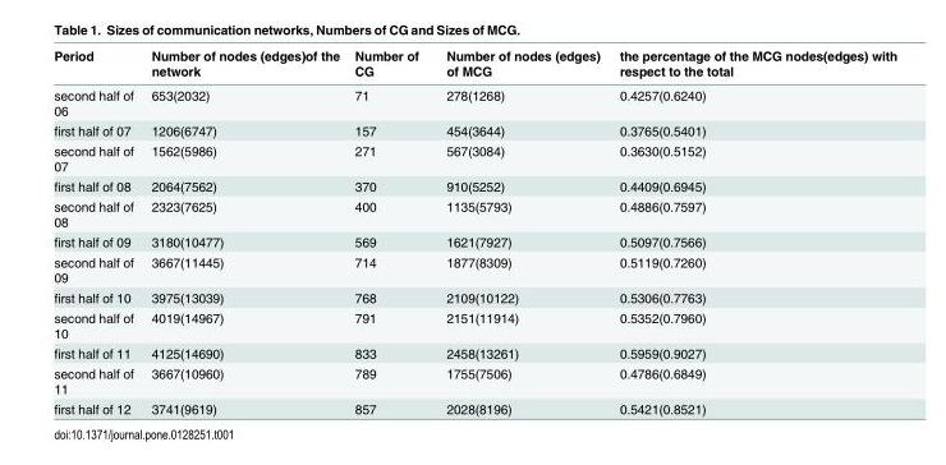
<table><thead><tr><td>Period</td><td>Number of nodes (edges)of the network</td><td>Number of CG</td><td>Number of nodes (edges) of MCG</td><td>the percentage of the MCG nodes(edges) with respect to the total</td></tr></thead><tbody><tr><td>second half of 06</td><td>653(2032)</td><td>71</td><td>278(1268)</td><td>0.4257(0.6240)</td></tr><tr><td>first half of 07</td><td>1206(6747)</td><td>157</td><td>454(3644)</td><td>0.3765(0.5401)</td></tr><tr><td>second half of 07</td><td>1562(5986)</td><td>271</td><td>567(3084)</td><td>0.3630(0.5152)</td></tr><tr><td>first half of 08</td><td>2064(7562)</td><td>370</td><td>910(5252)</td><td>0.4409(0.6945)</td></tr><tr><td>second half of 08</td><td>2323(7625)</td><td>400</td><td>1135(5793)</td><td>0.4886(0.7597)</td></tr><tr><td>first half of 09</td><td>3180(10477)</td><td>569</td><td>1621(7927)</td><td>0.5097(0.7566)</td></tr><tr><td>second half of 09</td><td>3667(11445)</td><td>714</td><td>1877(8309)</td><td>0.5119(0.7260)</td></tr><tr><td>first half of 10</td><td>3975(13039)</td><td>768</td><td>2109(10122)</td><td>0.5306(0.7763)</td></tr><tr><td>second half of 10</td><td>4019(14967)</td><td>791</td><td>2151(11914)</td><td>0.5352(0.7960)</td></tr><tr><td>first half of 11</td><td>4125(14690)</td><td>833</td><td>2458(13261)</td><td>0.5959(0.9027)</td></tr><tr><td>second half of 11</td><td>3667(10960)</td><td>789</td><td>1755(7506)</td><td>0.4786(0.6849)</td></tr><tr><td>first half of 12</td><td>3741(9619)</td><td>857</td><td>2028(8196)</td><td>0.5421(0.8521)</td></tr></tbody></table>